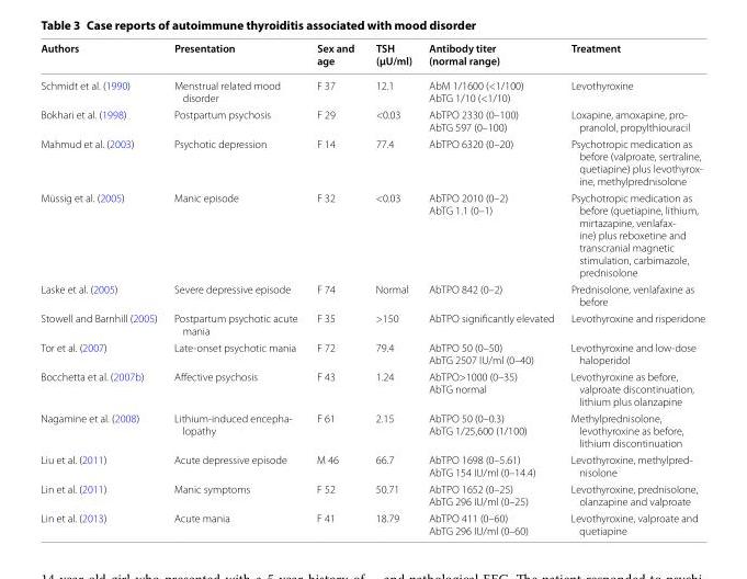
<table><thead><tr><td>Authors</td><td>Presentation</td><td>Sex and age</td><td>TSH (µU/ml)</td><td>Antibody titer (normal range)</td><td>Treatment</td></tr></thead><tbody><tr><td>Schmidt et al. (1990)</td><td>Menstrual related mood disorder</td><td>F 37</td><td>12.1</td><td>AbM 1/1600 (&lt;1/100) AbTG 1/10 (&lt;1/10)</td><td>Levothyroxine</td></tr><tr><td>Bokhari et al. (1998)</td><td>Postpartum psychosis</td><td>F 29</td><td>&lt;0.03</td><td>AbTPO 2330 (0–100) AbTG 597 (0–100)</td><td>Loxapine, amoxapine, pro- pranolol, propylthiouracil</td></tr><tr><td>Mahmud et al. (2003)</td><td>Psychotic depression</td><td>F 14</td><td>77.4</td><td>AbTPO 6320 (0–20)</td><td>Psychotropic medication as before (valproate, sertraline, quetiapine) plus levothyrox- ine, methylprednisolone</td></tr><tr><td>Müssig et al. (2005)</td><td>Manic episode</td><td>F 32</td><td>&lt;0.03</td><td>AbTPO 2010 (0–2) AbTG 1.1 (0–1)</td><td>Psychotropic medication as before (quetiapine, lithium, mirtazapine, venlafax- ine) plus reboxetine and transcranial magnetic stimulation, carbimazole, prednisolone</td></tr><tr><td>Laske et al. (2005)</td><td>Severe depressive episode</td><td>F 74</td><td>Normal</td><td>AbTPO 842 (0–2)</td><td>Prednisolone, venlafaxine as before</td></tr><tr><td>Stowell and Barnhill (2005)</td><td>Postpartum psychotic acute mania</td><td>F 35</td><td>&gt;150</td><td>AbTPO significantly elevated</td><td>Levothyroxine and risperidone</td></tr><tr><td>Tor et al. (2007)</td><td>Late-onset psychotic mania</td><td>F 72</td><td>79.4</td><td>AbTPO 50 (0–50) AbTG 2507 IU/ml (0–40)</td><td>Levothyroxine and low-dose haloperidol</td></tr><tr><td>Bocchetta et al. (2007b)</td><td>Affective psychosis</td><td>F 43</td><td>1.24</td><td>AbTPO&gt;1000 (0–35) AbTG normal</td><td>Levothyroxine as before, valproate discontinuation, lithium plus olanzapine</td></tr><tr><td>Nagamine et al. (2008)</td><td>Lithium-induced encepha- lopathy</td><td>F 61</td><td>2.15</td><td>AbTPO 50 (0–0.3) AbTG 1/25,600 (1/100)</td><td>Methylprednisolone, levothyroxine as before, lithium discontinuation</td></tr><tr><td>Liu et al. (2011)</td><td>Acute depressive episode</td><td>M 46</td><td>66.7</td><td>AbTPO 1698 (0–5.61) AbTG 154 IU/ml (0–14.4)</td><td>Levothyroxine, methylpred- nisolone</td></tr><tr><td>Lin et al. (2011)</td><td>Manic symptoms</td><td>F 52</td><td>50.71</td><td>AbTPO 1652 (0–25) AbTG 296 IU/ml (0–25)</td><td>Levothyroxine, prednisolone, olanzapine and valproate</td></tr><tr><td>Lin et al. (2013)</td><td>Acute mania</td><td>F 41</td><td>18.79</td><td>AbTPO 411 (0–60) AbTG 296 IU/ml (0–60)</td><td>Levothyroxine, valproate and quetiapine</td></tr></tbody></table>